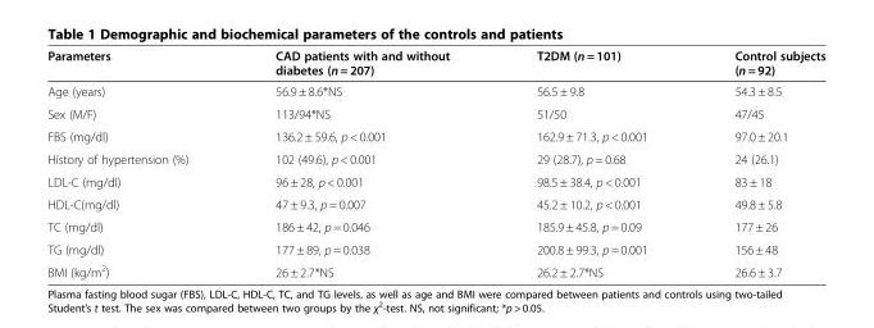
<table><thead><tr><td>Parameters</td><td>CAD patients with and without diabetes (n = 207)</td><td>T2DM (n = 101)</td><td>Control subjects (n = 92)</td></tr></thead><tbody><tr><td>Age (years)</td><td>56.9 ± 8.6*NS</td><td>56.5 ± 9.8</td><td>54.3 ± 8.5</td></tr><tr><td>Sex (M/F)</td><td>113/94*NS</td><td>51/50</td><td>47/45</td></tr><tr><td>FBS (mg/dl)</td><td>136.2 ± 59.6, p &lt; 0.001</td><td>162.9 ± 71.3, p &lt; 0.001</td><td>97.0 ± 20.1</td></tr><tr><td>History of hypertension (%)</td><td>102 (49.6), p &lt; 0.001</td><td>29 (28.7), p = 0.68</td><td>24 (26.1)</td></tr><tr><td>LDL-C (mg/dl)</td><td>96 ± 28, p &lt; 0.001</td><td>98.5 ± 38.4, p &lt; 0.001</td><td>83 ± 18</td></tr><tr><td>HDL-C(mg/dl)</td><td>47 ± 9.3, p = 0.007</td><td>45.2 ± 10.2, p &lt; 0.001</td><td>49.8 ± 5.8</td></tr><tr><td>TC (mg/dl)</td><td>186 ± 42, p = 0.046</td><td>185.9 ± 45.8, p = 0.09</td><td>177 ± 26</td></tr><tr><td>TG (mg/dl)</td><td>177 ± 89, p = 0.038</td><td>200.8 ± 99.3, p = 0.001</td><td>156 ± 48</td></tr><tr><td>BMI (kg/m<sup>2</sup>)</td><td>26 ± 2.7*NS</td><td>26.2 ± 2.7*NS</td><td>26.6 ± 3.7</td></tr></tbody></table>